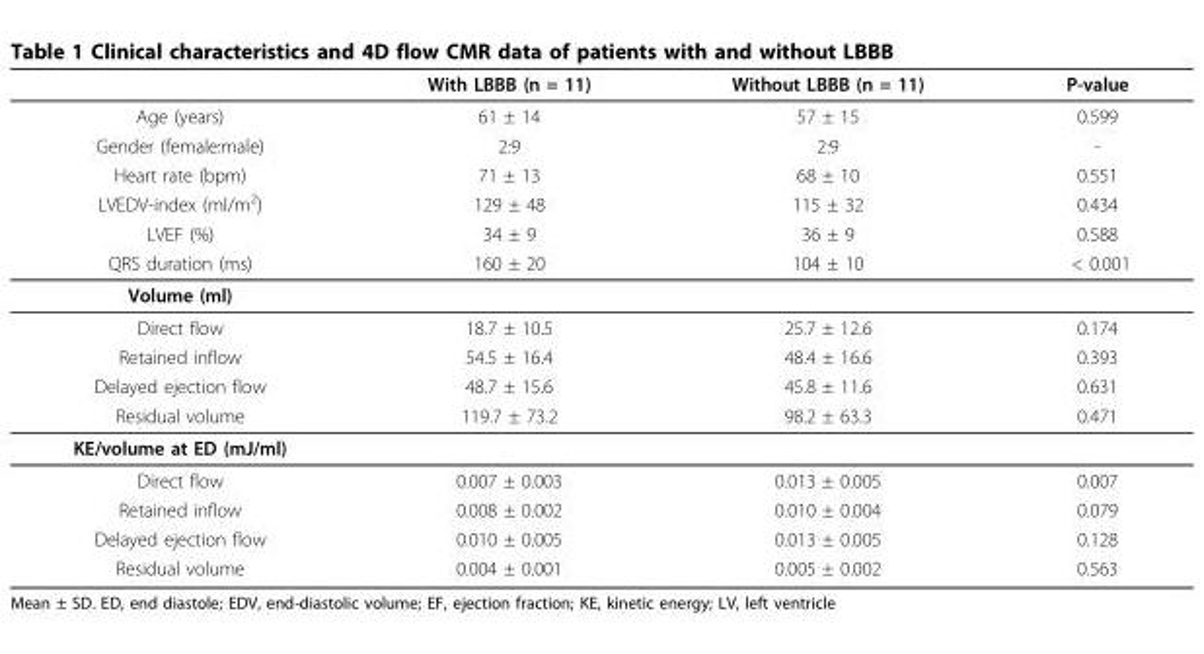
<table><thead><tr><td></td><td>With LBBB (n = 11)</td><td>Without LBBB (n = 11)</td><td>P-value</td></tr></thead><tbody><tr><td>Age (years)</td><td>61 ± 14</td><td>57 ± 15</td><td>0.599</td></tr><tr><td>Gender (female:male)</td><td>2:9</td><td>2:9</td><td>-</td></tr><tr><td>Heart rate (bpm)</td><td>71 ± 13</td><td>68 ± 10</td><td>0.551</td></tr><tr><td>LVEDV-index (ml/m<sup>2</sup>)</td><td>129 ± 48</td><td>115 ± 32</td><td>0.434</td></tr><tr><td>LVEF (%)</td><td>34 ± 9</td><td>36 ± 9</td><td>0.588</td></tr><tr><td>QRS duration (ms)</td><td>160 ± 20</td><td>104 ± 10</td><td>&lt; 0.001</td></tr><tr><td colspan="4">Volume (ml)</td></tr><tr><td>Direct flow</td><td>18.7 ± 10.5</td><td>25.7 ± 12.6</td><td>0.174</td></tr><tr><td>Retained inflow</td><td>54.5 ± 16.4</td><td>48.4 ± 16.6</td><td>0.393</td></tr><tr><td>Delayed ejection flow</td><td>48.7 ± 15.6</td><td>45.8 ± 11.6</td><td>0.631</td></tr><tr><td>Residual volume</td><td>119.7 ± 73.2</td><td>98.2 ± 63.3</td><td>0.471</td></tr><tr><td colspan="4">KE/volume at ED (mJ/ml)</td></tr><tr><td>Direct flow</td><td>0.007 ± 0.003</td><td>0.013 ± 0.005</td><td>0.007</td></tr><tr><td>Retained inflow</td><td>0.008 ± 0.002</td><td>0.010 ± 0.004</td><td>0.079</td></tr><tr><td>Delayed ejection flow</td><td>0.010 ± 0.005</td><td>0.013 ± 0.005</td><td>0.128</td></tr><tr><td>Residual volume</td><td>0.004 ± 0.001</td><td>0.005 ± 0.002</td><td>0.563</td></tr></tbody></table>